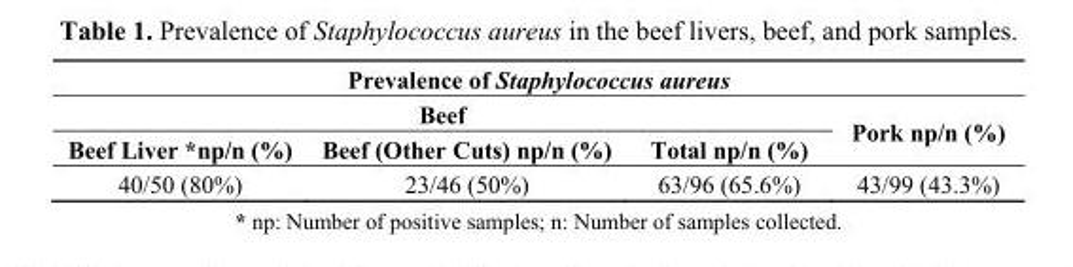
<table><thead><tr><td colspan="4">Prevalence of Staphylococcus aureus</td></tr><tr><td colspan="3">Beef</td><td rowspan="2">Pork np/n (%)</td></tr><tr><td>Beef Liver *np/n (%)</td><td>Beef (Other Cuts) np/n (%)</td><td>Total np/n (%)</td></tr></thead><tbody><tr><td>40/50 (80%)</td><td>23/46 (50%)</td><td>63/96 (65.6%)</td><td>43/99 (43.3%)</td></tr></tbody></table>